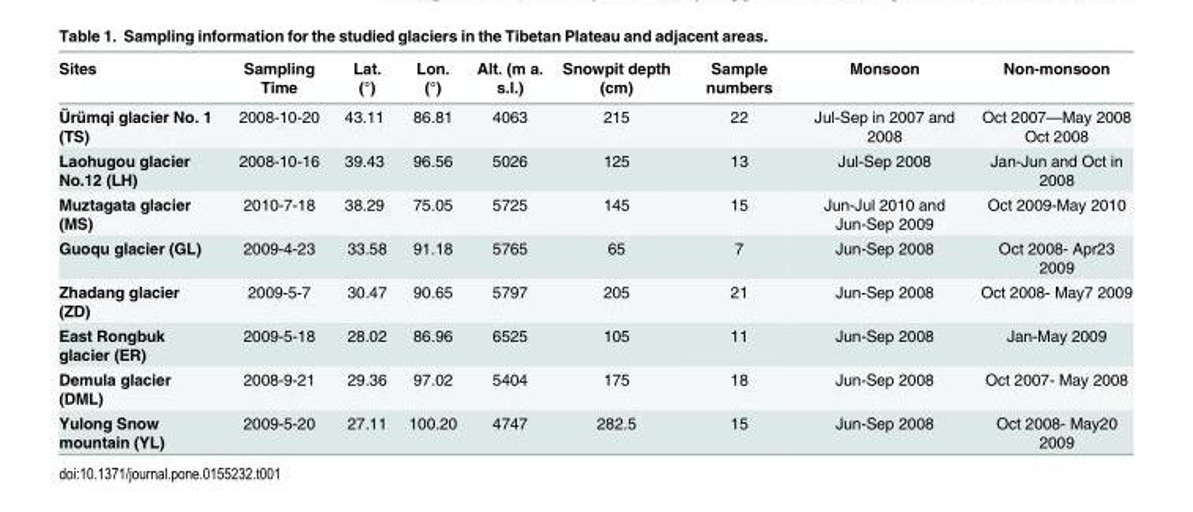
<table><thead><tr><td>Sites</td><td>Sampling Time</td><td>Lat. (°)</td><td>Lon. (°)</td><td>Alt. (m a. s.l.)</td><td>Snowpit depth (cm)</td><td>Sample numbers</td><td>Monsoon</td><td>Non-monsoon</td></tr></thead><tbody><tr><td>Ürümqi glacier No. 1 (TS)</td><td>2008-10-20</td><td>43.11</td><td>86.81</td><td>4063</td><td>215</td><td>22</td><td>Jul-Sep in 2007 and 2008</td><td>Oct 2007—May 2008 Oct 2008</td></tr><tr><td>Laohugou glacier No.12 (LH)</td><td>2008-10-16</td><td>39.43</td><td>96.56</td><td>5026</td><td>125</td><td>13</td><td>Jul-Sep 2008</td><td>Jan-Jun and Oct in 2008</td></tr><tr><td>Muztagata glacier (MS)</td><td>2010-7-18</td><td>38.29</td><td>75.05</td><td>5725</td><td>145</td><td>15</td><td>Jun-Jul 2010 and Jun-Sep 2009</td><td>Oct 2009-May 2010</td></tr><tr><td>Guoqu glacier (GL)</td><td>2009-4-23</td><td>33.58</td><td>91.18</td><td>5765</td><td>65</td><td>7</td><td>Jun-Sep 2008</td><td>Oct 2008- Apr23 2009</td></tr><tr><td>Zhadang glacier (ZD)</td><td>2009-5-7</td><td>30.47</td><td>90.65</td><td>5797</td><td>205</td><td>21</td><td>Jun-Sep 2008</td><td>Oct 2008- May7 2009</td></tr><tr><td>East Rongbuk glacier (ER)</td><td>2009-5-18</td><td>28.02</td><td>86.96</td><td>6525</td><td>105</td><td>11</td><td>Jun-Sep 2008</td><td>Jan-May 2009</td></tr><tr><td>Demula glacier (DML)</td><td>2008-9-21</td><td>29.36</td><td>97.02</td><td>5404</td><td>175</td><td>18</td><td>Jun-Sep 2008</td><td>Oct 2007- May 2008</td></tr><tr><td>Yulong Snow mountain (YL)</td><td>2009-5-20</td><td>27.11</td><td>100.20</td><td>4747</td><td>282.5</td><td>15</td><td>Jun-Sep 2008</td><td>Oct 2008- May20 2009</td></tr></tbody></table>